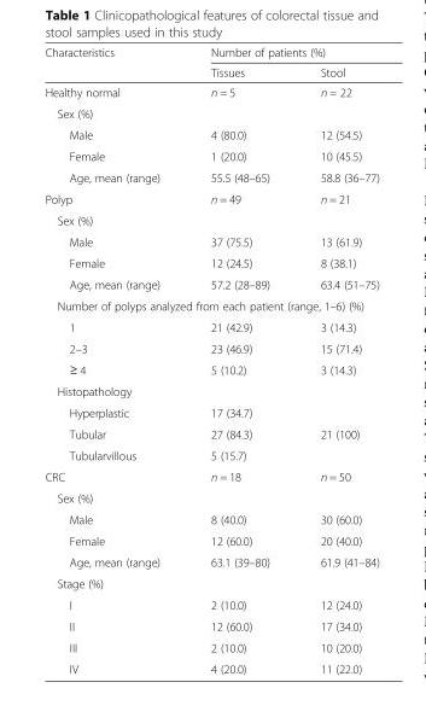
<table><thead><tr><td rowspan="2">Characteristics</td><td colspan="2">Number of patients (%)</td></tr><tr><td>Tissues</td><td>Stool</td></tr></thead><tbody><tr><td>Healthy normal</td><td>n = 5</td><td>n = 22</td></tr><tr><td colspan="3">Sex (%)</td></tr><tr><td>Male</td><td>4 (80.0)</td><td>12 (54.5)</td></tr><tr><td>Female</td><td>1 (20.0)</td><td>10 (45.5)</td></tr><tr><td>Age, mean (range)</td><td>55.5 (48–65)</td><td>58.8 (36–77)</td></tr><tr><td>Polyp</td><td>n = 49</td><td>n = 21</td></tr><tr><td colspan="3">Sex (%)</td></tr><tr><td>Male</td><td>37 (75.5)</td><td>13 (61.9)</td></tr><tr><td>Female</td><td>12 (24.5)</td><td>8 (38.1)</td></tr><tr><td>Age, mean (range)</td><td>57.2 (28–89)</td><td>63.4 (51–75)</td></tr><tr><td colspan="3">Number of polyps analyzed from each patient (range, 1–6) (%)</td></tr><tr><td>1</td><td>21 (42.9)</td><td>3 (14.3)</td></tr><tr><td>2–3</td><td>23 (46.9)</td><td>15 (71.4)</td></tr><tr><td>≥ 4</td><td>5 (10.2)</td><td>3 (14.3)</td></tr><tr><td colspan="3">Histopathology</td></tr><tr><td>Hyperplastic</td><td>17 (34.7)</td><td></td></tr><tr><td>Tubular</td><td>27 (84.3)</td><td>21 (100)</td></tr><tr><td>Tubularvillous</td><td>5 (15.7)</td><td></td></tr><tr><td>CRC</td><td>n = 18</td><td>n = 50</td></tr><tr><td colspan="3">Sex (%)</td></tr><tr><td>Male</td><td>8 (40.0)</td><td>30 (60.0)</td></tr><tr><td>Female</td><td>12 (60.0)</td><td>20 (40.0)</td></tr><tr><td>Age, mean (range)</td><td>63.1 (39–80)</td><td>61.9 (41–84)</td></tr><tr><td colspan="3">Stage (%)</td></tr><tr><td>I</td><td>2 (10.0)</td><td>12 (24.0)</td></tr><tr><td>II</td><td>12 (60.0)</td><td>17 (34.0)</td></tr><tr><td>III</td><td>2 (10.0)</td><td>10 (20.0)</td></tr><tr><td>IV</td><td>4 (20.0)</td><td>11 (22.0)</td></tr></tbody></table>